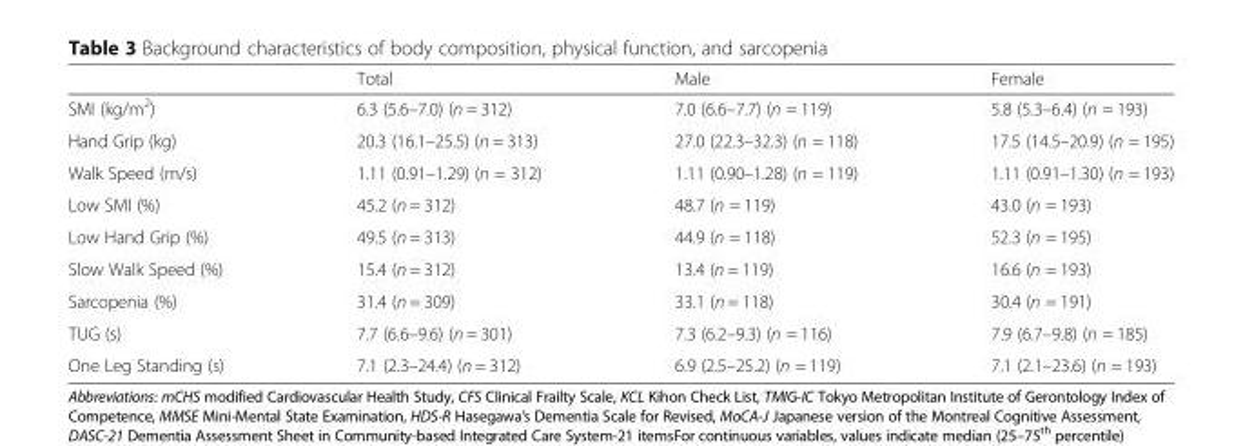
<table><thead><tr><td></td><td>Total</td><td>Male</td><td>Female</td></tr></thead><tbody><tr><td>SMI (kg/m<sup>2</sup>)</td><td>6.3 (5.6–7.0) (n = 312)</td><td>7.0 (6.6–7.7) (n = 119)</td><td>5.8 (5.3–6.4) (n = 193)</td></tr><tr><td>Hand Grip (kg)</td><td>20.3 (16.1–25.5) (n = 313)</td><td>27.0 (22.3–32.3) (n = 118)</td><td>17.5 (14.5–20.9) (n = 195)</td></tr><tr><td>Walk Speed (m/s)</td><td>1.11 (0.91–1.29) (n = 312)</td><td>1.11 (0.90–1.28) (n = 119)</td><td>1.11 (0.91–1.30) (n = 193)</td></tr><tr><td>Low SMI (%)</td><td>45.2 (n = 312)</td><td>48.7 (n = 119)</td><td>43.0 (n = 193)</td></tr><tr><td>Low Hand Grip (%)</td><td>49.5 (n = 313)</td><td>44.9 (n = 118)</td><td>52.3 (n = 195)</td></tr><tr><td>Slow Walk Speed (%)</td><td>15.4 (n = 312)</td><td>13.4 (n = 119)</td><td>16.6 (n = 193)</td></tr><tr><td>Sarcopenia (%)</td><td>31.4 (n = 309)</td><td>33.1 (n = 118)</td><td>30.4 (n = 191)</td></tr><tr><td>TUG (s)</td><td>7.7 (6.6–9.6) (n = 301)</td><td>7.3 (6.2–9.3) (n = 116)</td><td>7.9 (6.7–9.8) (n = 185)</td></tr><tr><td>One Leg Standing (s)</td><td>7.1 (2.3–24.4) (n = 312)</td><td>6.9 (2.5–25.2) (n = 119)</td><td>7.1 (2.1–23.6) (n = 193)</td></tr></tbody></table>